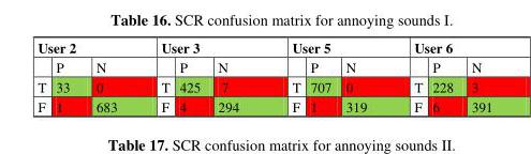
<table><thead><tr><td colspan="3">User 2</td><td colspan="3">User 3</td><td colspan="3">User 5</td><td colspan="3">User 6</td></tr><tr><td></td><td>P</td><td>N</td><td></td><td>P</td><td>N</td><td></td><td>P</td><td>N</td><td></td><td>P</td><td>N</td></tr></thead><tbody><tr><td>T</td><td>33</td><td>0</td><td>T</td><td>425</td><td>7</td><td>T</td><td>707</td><td>0</td><td>T</td><td>228</td><td>3</td></tr><tr><td>F</td><td>1</td><td>683</td><td>F</td><td>4</td><td>294</td><td>F</td><td>1</td><td>319</td><td>F</td><td>6</td><td>391</td></tr></tbody></table>